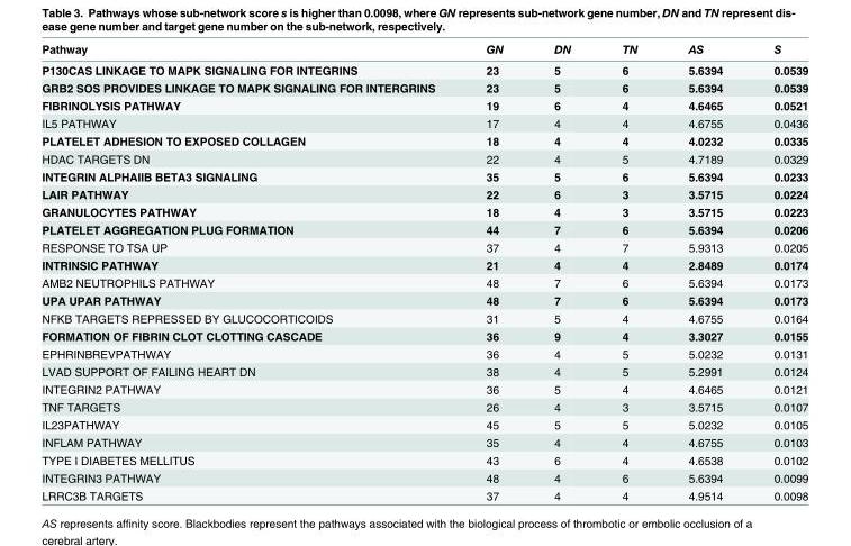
<table><thead><tr><td>Pathway</td><td>GN</td><td>DN</td><td>TN</td><td>AS</td><td>S</td></tr></thead><tbody><tr><td>P130CAS LINKAGE TO MAPK SIGNALING FOR INTEGRINS</td><td>23</td><td>5</td><td>6</td><td>5.6394</td><td>0.0539</td></tr><tr><td>GRB2 SOS PROVIDES LINKAGE TO MAPK SIGNALING FOR INTERGRINS</td><td>23</td><td>5</td><td>6</td><td>5.6394</td><td>0.0539</td></tr><tr><td>FIBRINOLYSIS PATHWAY</td><td>19</td><td>6</td><td>4</td><td>4.6465</td><td>0.0521</td></tr><tr><td>IL5 PATHWAY</td><td>17</td><td>4</td><td>4</td><td>4.6755</td><td>0.0436</td></tr><tr><td>PLATELET ADHESION TO EXPOSED COLLAGEN</td><td>18</td><td>4</td><td>4</td><td>4.0232</td><td>0.0335</td></tr><tr><td>HDAC TARGETS DN</td><td>22</td><td>4</td><td>5</td><td>4.7189</td><td>0.0329</td></tr><tr><td>INTEGRIN ALPHAIIB BETA3 SIGNALING</td><td>35</td><td>5</td><td>6</td><td>5.6394</td><td>0.0233</td></tr><tr><td>LAIR PATHWAY</td><td>22</td><td>6</td><td>3</td><td>3.5715</td><td>0.0224</td></tr><tr><td>GRANULOCYTES PATHWAY</td><td>18</td><td>4</td><td>3</td><td>3.5715</td><td>0.0223</td></tr><tr><td>PLATELET AGGREGATION PLUG FORMATION</td><td>44</td><td>7</td><td>6</td><td>5.6394</td><td>0.0206</td></tr><tr><td>RESPONSE TO TSA UP</td><td>37</td><td>4</td><td>7</td><td>5.9313</td><td>0.0205</td></tr><tr><td>INTRINSIC PATHWAY</td><td>21</td><td>4</td><td>4</td><td>2.8489</td><td>0.0174</td></tr><tr><td>AMB2 NEUTROPHILS PATHWAY</td><td>48</td><td>7</td><td>6</td><td>5.6394</td><td>0.0173</td></tr><tr><td>UPA UPAR PATHWAY</td><td>48</td><td>7</td><td>6</td><td>5.6394</td><td>0.0173</td></tr><tr><td>NFKB TARGETS REPRESSED BY GLUCOCORTICOIDS</td><td>31</td><td>5</td><td>4</td><td>4.6755</td><td>0.0164</td></tr><tr><td>FORMATION OF FIBRIN CLOT CLOTTING CASCADE</td><td>36</td><td>9</td><td>4</td><td>3.3027</td><td>0.0155</td></tr><tr><td>EPHRINBREVPATHWAY</td><td>36</td><td>4</td><td>5</td><td>5.0232</td><td>0.0131</td></tr><tr><td>LVAD SUPPORT OF FAILING HEART DN</td><td>38</td><td>4</td><td>5</td><td>5.2991</td><td>0.0124</td></tr><tr><td>INTEGRIN2 PATHWAY</td><td>36</td><td>5</td><td>4</td><td>4.6465</td><td>0.0121</td></tr><tr><td>TNF TARGETS</td><td>26</td><td>4</td><td>3</td><td>3.5715</td><td>0.0107</td></tr><tr><td>IL23PATHWAY</td><td>45</td><td>5</td><td>5</td><td>5.0232</td><td>0.0105</td></tr><tr><td>INFLAM PATHWAY</td><td>35</td><td>4</td><td>4</td><td>4.6755</td><td>0.0103</td></tr><tr><td>TYPE I DIABETES MELLITUS</td><td>43</td><td>6</td><td>4</td><td>4.6538</td><td>0.0102</td></tr><tr><td>INTEGRIN3 PATHWAY</td><td>48</td><td>4</td><td>6</td><td>5.6394</td><td>0.0099</td></tr><tr><td>LRRC3B TARGETS</td><td>37</td><td>4</td><td>4</td><td>4.9514</td><td>0.0098</td></tr></tbody></table>